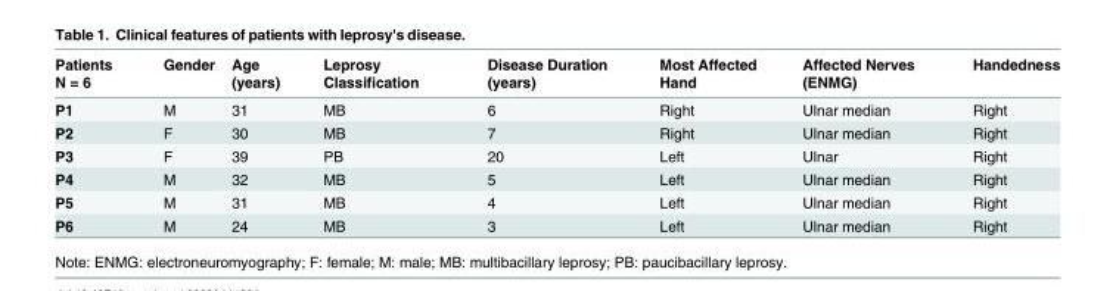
<table><thead><tr><td>Patients N = 6</td><td>Gender</td><td>Age (years)</td><td>Leprosy Classification</td><td>Disease Duration (years)</td><td>Most Affected Hand</td><td>Affected Nerves (ENMG)</td><td>Handedness</td></tr></thead><tbody><tr><td>P1</td><td>M</td><td>31</td><td>MB</td><td>6</td><td>Right</td><td>Ulnar median</td><td>Right</td></tr><tr><td>P2</td><td>F</td><td>30</td><td>MB</td><td>7</td><td>Right</td><td>Ulnar median</td><td>Right</td></tr><tr><td>P3</td><td>F</td><td>39</td><td>PB</td><td>20</td><td>Left</td><td>Ulnar</td><td>Right</td></tr><tr><td>P4</td><td>M</td><td>32</td><td>MB</td><td>5</td><td>Left</td><td>Ulnar median</td><td>Right</td></tr><tr><td>P5</td><td>M</td><td>31</td><td>MB</td><td>4</td><td>Left</td><td>Ulnar median</td><td>Right</td></tr><tr><td>P6</td><td>M</td><td>24</td><td>MB</td><td>3</td><td>Left</td><td>Ulnar median</td><td>Right</td></tr></tbody></table>